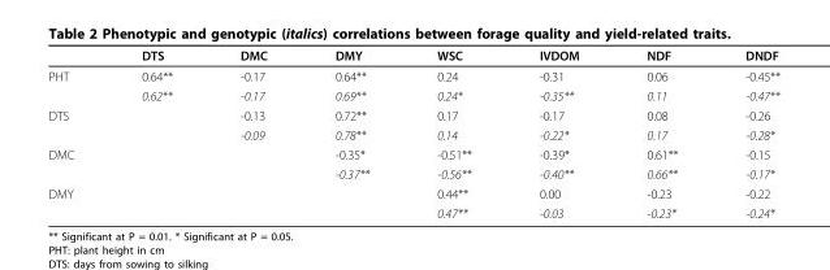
<table><thead><tr><td></td><td>DTS</td><td>DMC</td><td>DMY</td><td>WSC</td><td>IVDOM</td><td>NDF</td><td>DNDF</td></tr></thead><tbody><tr><td rowspan="2">PHT</td><td>0.64**</td><td>-0.17</td><td>0.64**</td><td>0.24</td><td>-0.31</td><td>0.06</td><td>-0.45**</td></tr><tr><td>0.62**</td><td>-0.17</td><td>0.69**</td><td>0.24*</td><td>-0.35**</td><td>0.11</td><td>-0.47**</td></tr><tr><td rowspan="2">DTS</td><td></td><td>-0.13</td><td>0.72**</td><td>0.17</td><td>-0.17</td><td>0.08</td><td>-0.26</td></tr><tr><td></td><td>-0.09</td><td>0.78**</td><td>0.14</td><td>-0.22*</td><td>0.17</td><td>-0.28*</td></tr><tr><td rowspan="2">DMC</td><td></td><td></td><td>-0.35*</td><td>-0.51**</td><td>-0.39*</td><td>0.61**</td><td>-0.15</td></tr><tr><td></td><td></td><td>-0.37**</td><td>-0.56**</td><td>-0.40**</td><td>0.66**</td><td>-0.17*</td></tr><tr><td rowspan="2">DMY</td><td></td><td></td><td></td><td>0.44**</td><td>0.00</td><td>-0.23</td><td>-0.22</td></tr><tr><td></td><td></td><td></td><td>0.47**</td><td>-0.03</td><td>-0.23*</td><td>-0.24*</td></tr></tbody></table>